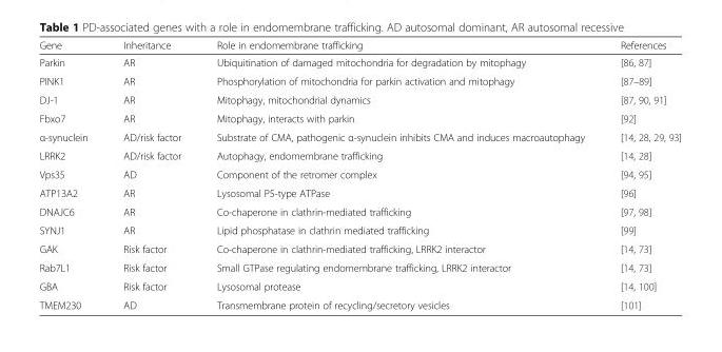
<table><thead><tr><td>Gene</td><td>Inheritance</td><td>Role in endomembrane trafficking</td><td>References</td></tr></thead><tbody><tr><td>Parkin</td><td>AR</td><td>Ubiquitination of damaged mitochondria for degradation by mitophagy</td><td>[86, 87]</td></tr><tr><td>PINK1</td><td>AR</td><td>Phosphorylation of mitochondria for parkin activation and mitophagy</td><td>[87–89]</td></tr><tr><td>DJ-1</td><td>AR</td><td>Mitophagy, mitochondrial dynamics</td><td>[87, 90, 91]</td></tr><tr><td>Fbxo7</td><td>AR</td><td>Mitophagy, interacts with parkin</td><td>[92]</td></tr><tr><td>α-synuclein</td><td>AD/risk factor</td><td>Substrate of CMA, pathogenic α-synuclein inhibits CMA and induces macroautophagy</td><td>[14, 28, 29, 93]</td></tr><tr><td>LRRK2</td><td>AD/risk factor</td><td>Autophagy, endomembrane trafficking</td><td>[14, 28]</td></tr><tr><td>Vps35</td><td>AD</td><td>Component of the retromer complex</td><td>[94, 95]</td></tr><tr><td>ATP13A2</td><td>AR</td><td>Lysosomal P5-type ATPase</td><td>[96]</td></tr><tr><td>DNAJC6</td><td>AR</td><td>Co-chaperone in clathrin-mediated trafficking</td><td>[97, 98]</td></tr><tr><td>SYNJ1</td><td>AR</td><td>Lipid phosphatase in clathrin mediated trafficking</td><td>[99]</td></tr><tr><td>GAK</td><td>Risk factor</td><td>Co-chaperone in clathrin-mediated trafficking, LRRK2 interactor</td><td>[14, 73]</td></tr><tr><td>Rab7L1</td><td>Risk factor</td><td>Small GTPase regulating endomembrane trafficking, LRRK2 interactor</td><td>[14, 73]</td></tr><tr><td>GBA</td><td>Risk factor</td><td>Lysosomal protease</td><td>[14, 100]</td></tr><tr><td>TMEM230</td><td>AD</td><td>Transmembrane protein of recycling/secretory vesicles</td><td>[101]</td></tr></tbody></table>